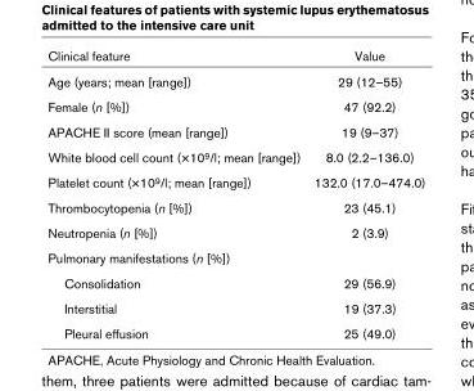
<table><thead><tr><td>Clinical feature</td><td>Value</td></tr></thead><tbody><tr><td>Age (years; mean [range])</td><td>29 (12–55)</td></tr><tr><td>Female (n [%])</td><td>47 (92.2)</td></tr><tr><td>APACHE II score (mean [range])</td><td>19 (9–37)</td></tr><tr><td>White blood cell count (×109/l; mean [range])</td><td>8.0 (2.2–136.0)</td></tr><tr><td>Platelet count (×109/l; mean [range])</td><td>132.0 (17.0–474.0)</td></tr><tr><td>Thrombocytopenia (n [%])</td><td>23 (45.1)</td></tr><tr><td>Neutropenia (n [%])</td><td>2 (3.9)</td></tr><tr><td colspan="2">Pulmonary manifestations (n [%])</td></tr><tr><td>Consolidation</td><td>29 (56.9)</td></tr><tr><td>Interstitial</td><td>19 (37.3)</td></tr><tr><td>Pleural effusion</td><td>25 (49.0)</td></tr></tbody></table>